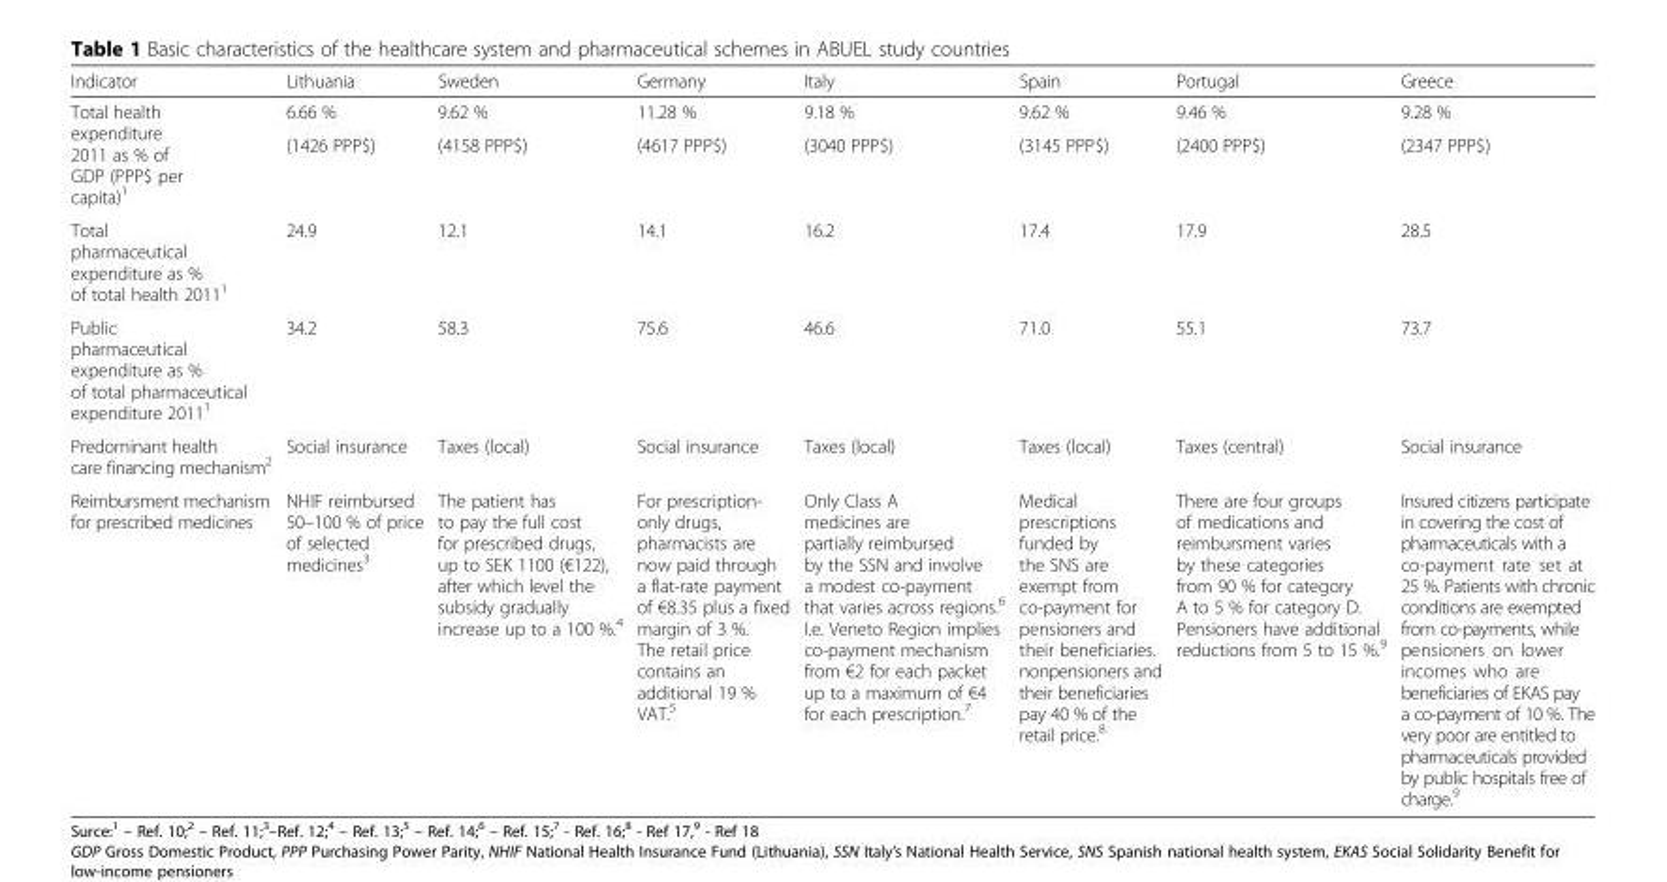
<table><thead><tr><td>Indicator</td><td>Lithuania</td><td>Sweden</td><td>Germany</td><td>Italy</td><td>Spain</td><td>Portugal</td><td>Greece</td></tr></thead><tbody><tr><td rowspan="2">Total health expenditure 2011 as % of GDP (PPP$ per capita)<sup>1</sup></td><td>6.66 %</td><td>9.62 %</td><td>11.28 %</td><td>9.18 %</td><td>9.62 %</td><td>9.46 %</td><td>9.28 %</td></tr><tr><td>(1426 PPP$)</td><td>(4158 PPP$)</td><td>(4617 PPP$)</td><td>(3040 PPP$)</td><td>(3145 PPP$)</td><td>(2400 PPP$)</td><td>(2347 PPP$)</td></tr><tr><td>Total pharmaceutical expenditure as % of total health 2011<sup>1</sup></td><td>24.9</td><td>12.1</td><td>14.1</td><td>16.2</td><td>17.4</td><td>17.9</td><td>28.5</td></tr><tr><td>Public pharmaceutical expenditure as % of total pharmaceutical expenditure 2011<sup>1</sup></td><td>34.2</td><td>58.3</td><td>75.6</td><td>46.6</td><td>71.0</td><td>55.1</td><td>73.7</td></tr><tr><td>Predominant health care financing mechanism<sup>2</sup></td><td>Social insurance</td><td>Taxes (local)</td><td>Social insurance</td><td>Taxes (local)</td><td>Taxes (local)</td><td>Taxes (central)</td><td>Social insurance</td></tr><tr><td>Reimbursment mechanism for prescribed medicines</td><td>NHIF reimbursed 50–100 % of price of selected medicines<sup>3</sup></td><td>The patient has to pay the full cost for prescribed drugs, up to SEK 1100 (€122), after which level the subsidy gradually increase up to a 100 %.<sup>4</sup></td><td>For prescription- only drugs, pharmacists are now paid through a flat-rate payment of €8.35 plus a fixed margin of 3 %. The retail price contains an additional 19 % VAT.<sup>5</sup></td><td>Only Class A medicines are partially reimbursed by the SSN and involve a modest co-payment that varies across regions.<sup>6</sup> I.e. Veneto Region implies co-payment mechanism from €2 for each packet up to a maximum of €4 for each prescription.<sup>7</sup></td><td>Medical prescriptions funded by the SNS are exempt from co-payment for pensioners and their beneficiaries. nonpensioners and their beneficiaries pay 40 % of the retail price.<sup>8</sup></td><td>There are four groups of medications and reimbursment varies by these categories from 90 % for category A to 5 % for category D. Pensioners have additional reductions from 5 to 15 %.<sup>9</sup></td><td>Insured citizens participate in covering the cost of pharmaceuticals with a co-payment rate set at 25 %. Patients with chronic conditions are exempted from co-payments, while pensioners on lower incomes who are beneficiaries of EKAS pay a co-payment of 10 %. The very poor are entitled to pharmaceuticals provided by public hospitals free of charge.<sup>9</sup></td></tr></tbody></table>